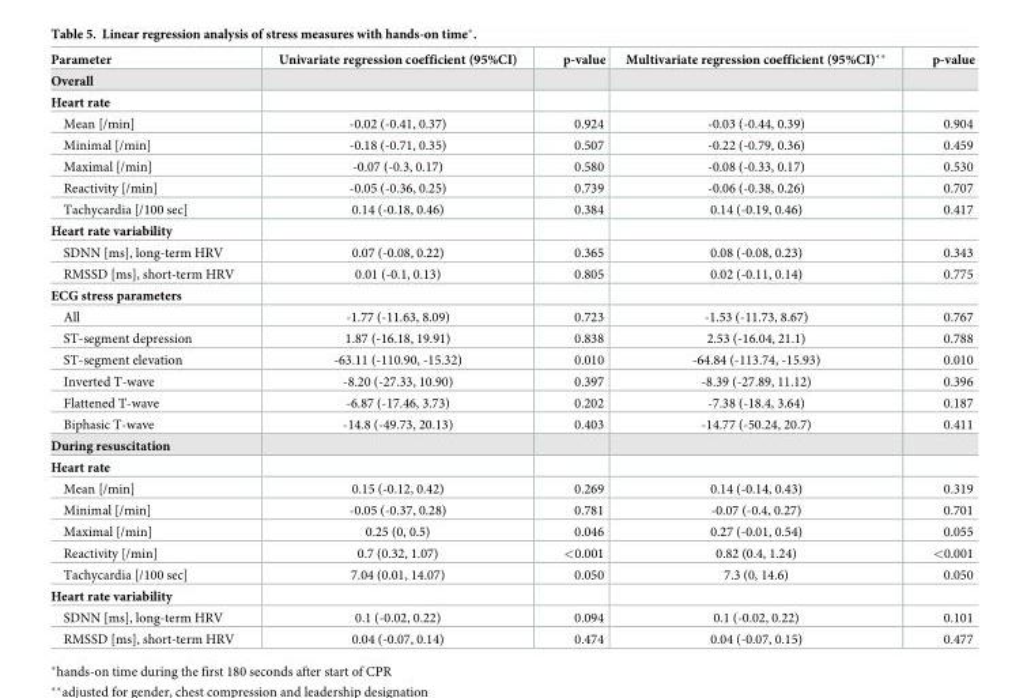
<table><thead><tr><td>Parameter</td><td>Univariate regression coefficient (95%CI)</td><td>p-value</td><td>Multivariate regression coefficient (95%CI)**</td><td>p-value</td></tr></thead><tbody><tr><td colspan="5">Overall</td></tr><tr><td colspan="5">Heart rate</td></tr><tr><td>Mean [/min]</td><td>-0.02 (-0.41, 0.37)</td><td>0.924</td><td>-0.03 (-0.44, 0.39)</td><td>0.904</td></tr><tr><td>Minimal [/min]</td><td>-0.18 (-0.71, 0.35)</td><td>0.507</td><td>-0.22 (-0.79, 0.36)</td><td>0.459</td></tr><tr><td>Maximal [/min]</td><td>-0.07 (-0.3, 0.17)</td><td>0.580</td><td>-0.08 (-0.33, 0.17)</td><td>0.530</td></tr><tr><td>Reactivity [/min]</td><td>-0.05 (-0.36, 0.25)</td><td>0.739</td><td>-0.06 (-0.38, 0.26)</td><td>0.707</td></tr><tr><td>Tachycardia [/100 sec]</td><td>0.14 (-0.18, 0.46)</td><td>0.384</td><td>0.14 (-0.19, 0.46)</td><td>0.417</td></tr><tr><td colspan="5">Heart rate variability</td></tr><tr><td>SDNN [ms], long-term HRV</td><td>0.07 (-0.08, 0.22)</td><td>0.365</td><td>0.08 (-0.08, 0.23)</td><td>0.343</td></tr><tr><td>RMSSD [ms], short-term HRV</td><td>0.01 (-0.1, 0.13)</td><td>0.805</td><td>0.02 (-0.11, 0.14)</td><td>0.775</td></tr><tr><td colspan="5">ECG stress parameters</td></tr><tr><td>All</td><td>-1.77 (-11.63, 8.09)</td><td>0.723</td><td>-1.53 (-11.73, 8.67)</td><td>0.767</td></tr><tr><td>ST-segment depression</td><td>1.87 (-16.18, 19.91)</td><td>0.838</td><td>2.53 (-16.04, 21.1)</td><td>0.788</td></tr><tr><td>ST-segment elevation</td><td>-63.11 (-110.90, -15.32)</td><td>0.010</td><td>-64.84 (-113.74, -15.93)</td><td>0.010</td></tr><tr><td>Inverted T-wave</td><td>-8.20 (-27.33, 10.90)</td><td>0.397</td><td>-8.39 (-27.89, 11.12)</td><td>0.396</td></tr><tr><td>Flattened T-wave</td><td>-6.87 (-17.46, 3.73)</td><td>0.202</td><td>-7.38 (-18.4, 3.64)</td><td>0.187</td></tr><tr><td>Biphasic T-wave</td><td>-14.8 (-49.73, 20.13)</td><td>0.403</td><td>-14.77 (-50.24, 20.7)</td><td>0.411</td></tr><tr><td colspan="5">During resuscitation</td></tr><tr><td colspan="5">Heart rate</td></tr><tr><td>Mean [/min]</td><td>0.15 (-0.12, 0.42)</td><td>0.269</td><td>0.14 (-0.14, 0.43)</td><td>0.319</td></tr><tr><td>Minimal [/min]</td><td>-0.05 (-0.37, 0.28)</td><td>0.781</td><td>-0.07 (-0.4, 0.27)</td><td>0.701</td></tr><tr><td>Maximal [/min]</td><td>0.25 (0, 0.5)</td><td>0.046</td><td>0.27 (-0.01, 0.54)</td><td>0.055</td></tr><tr><td>Reactivity [/min]</td><td>0.7 (0.32, 1.07)</td><td>&lt;0.001</td><td>0.82 (0.4, 1.24)</td><td>&lt;0.001</td></tr><tr><td>Tachycardia [/100 sec]</td><td>7.04 (0.01, 14.07)</td><td>0.050</td><td>7.3 (0, 14.6)</td><td>0.050</td></tr><tr><td colspan="5">Heart rate variability</td></tr><tr><td>SDNN [ms], long-term HRV</td><td>0.1 (-0.02, 0.22)</td><td>0.094</td><td>0.1 (-0.02, 0.22)</td><td>0.101</td></tr><tr><td>RMSSD [ms], short-term HRV</td><td>0.04 (-0.07, 0.14)</td><td>0.474</td><td>0.04 (-0.07, 0.15)</td><td>0.477</td></tr></tbody></table>